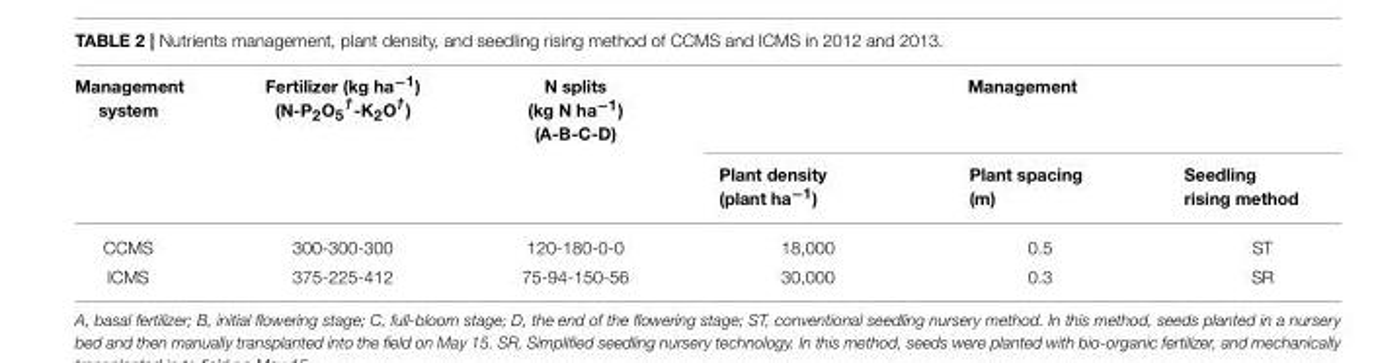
<table><thead><tr><td rowspan="2">Management system</td><td rowspan="2">Fertilizer (kg ha<sup>−1</sup>) (N-P<sub>2</sub>O<sub>5</sub> <sup>†</sup>-K<sub>2</sub>O<sup>†</sup>)</td><td rowspan="2">N splits (kg N ha<sup>−1</sup>) (A-B-C-D)</td><td colspan="3">Management</td></tr><tr><td>Plant density (plant ha<sup>−1</sup>)</td><td>Plant spacing (m)</td><td>Seedling rising method</td></tr></thead><tbody><tr><td>CCMS</td><td>300-300-300</td><td>120-180-0-0</td><td>18,000</td><td>0.5</td><td>ST</td></tr><tr><td>ICMS</td><td>375-225-412</td><td>75-94-150-56</td><td>30,000</td><td>0.3</td><td>SR</td></tr></tbody></table>